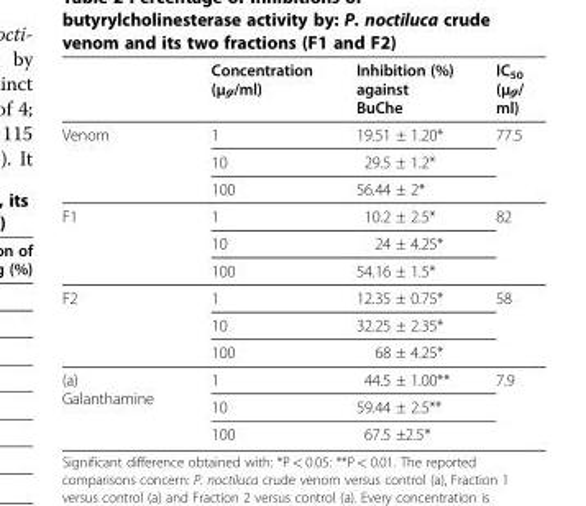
<table><thead><tr><td></td><td>Concentration (μℊ/ml)</td><td>Inhibition (%) against BuChe</td><td>IC<sub>50</sub> (μℊ/ ml)</td></tr></thead><tbody><tr><td rowspan="3">Venom</td><td>1</td><td>19.51 ± 1.20*</td><td rowspan="3">77.5</td></tr><tr><td>10</td><td>29.5 ± 1.2*</td></tr><tr><td>100</td><td>56.44 ± 2*</td></tr><tr><td rowspan="3">F1</td><td>1</td><td>10.2 ± 2.5*</td><td rowspan="3">82</td></tr><tr><td>10</td><td>24 ± 4.25*</td></tr><tr><td>100</td><td>54.16 ± 1.5*</td></tr><tr><td rowspan="3">F2</td><td>1</td><td>12.35 ± 0.75*</td><td rowspan="3">58</td></tr><tr><td>10</td><td>32.25 ± 2.35*</td></tr><tr><td>100</td><td>68 ± 4.25*</td></tr><tr><td rowspan="3">(a) Galanthamine</td><td>1</td><td>44.5 ± 1.00**</td><td rowspan="3">7.9</td></tr><tr><td>10</td><td>59.44 ± 2.5**</td></tr><tr><td>100</td><td>67.5 ±2.5*</td></tr></tbody></table>